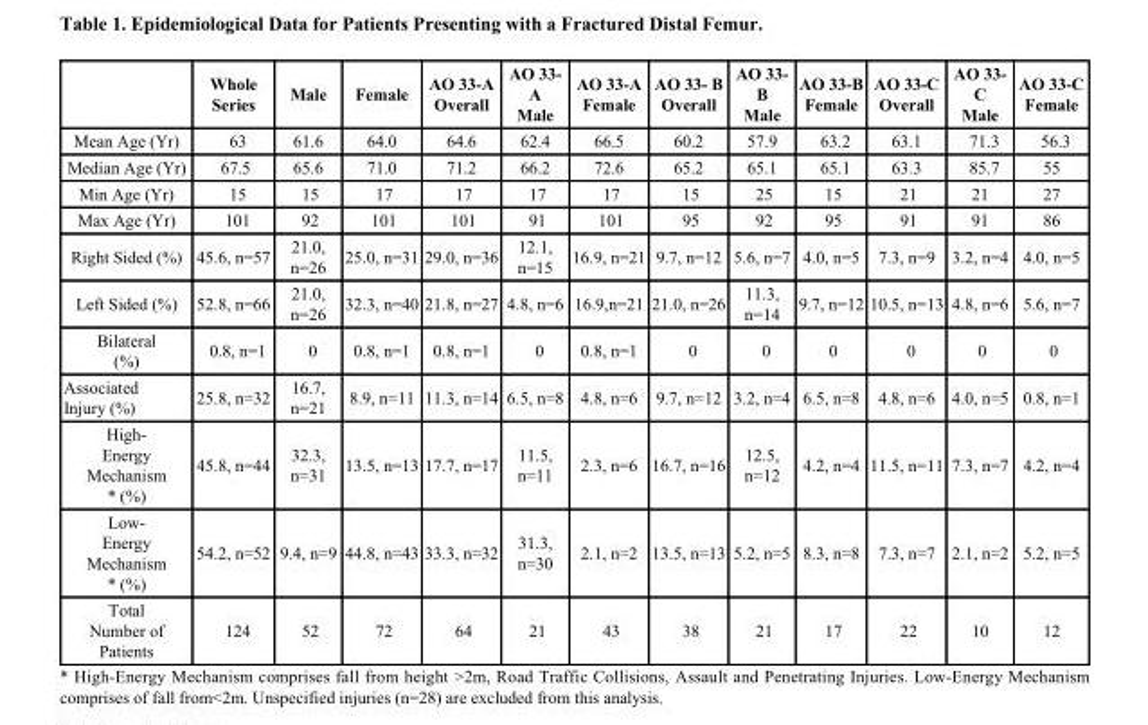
<table><thead><tr><td></td><td>Whole Series</td><td>Male</td><td>Female</td><td>AO 33-A Overall</td><td>AO 33- A Male</td><td>AO 33-A Female</td><td>AO 33- B Overall</td><td>AO 33- B Male</td><td>AO 33-B Female</td><td>AO 33-C Overall</td><td>AO 33- C Male</td><td>AO 33-C Female</td></tr></thead><tbody><tr><td>Mean Age (Yr)</td><td>63</td><td>61.6</td><td>64.0</td><td>64.6</td><td>62.4</td><td>66.5</td><td>60.2</td><td>57.9</td><td>63.2</td><td>63.1</td><td>71.3</td><td>56.3</td></tr><tr><td>Median Age (Yr)</td><td>67.5</td><td>65.6</td><td>71.0</td><td>71.2</td><td>66.2</td><td>72.6</td><td>65.2</td><td>65.1</td><td>65.1</td><td>63.3</td><td>85.7</td><td>55</td></tr><tr><td>Min Age (Yr)</td><td>15</td><td>15</td><td>17</td><td>17</td><td>17</td><td>17</td><td>15</td><td>25</td><td>15</td><td>21</td><td>21</td><td>27</td></tr><tr><td>Max Age (Yr)</td><td>101</td><td>92</td><td>101</td><td>101</td><td>91</td><td>101</td><td>95</td><td>92</td><td>95</td><td>91</td><td>91</td><td>86</td></tr><tr><td>Right Sided (%)</td><td>45.6, n=57</td><td>21.0, n=26</td><td>25.0, n=31</td><td>29.0, n=36</td><td>12.1, n=15</td><td>16.9, n=21</td><td>9.7, n=12</td><td>5.6, n=7</td><td>4.0, n=5</td><td>7.3, n=9</td><td>3.2, n=4</td><td>4.0, n=5</td></tr><tr><td>Left Sided (%)</td><td>52.8, n=66</td><td>21.0, n=26</td><td>32.3, n=40</td><td>21.8, n=27</td><td>4.8, n=6</td><td>16.9,n=21</td><td>21.0, n=26</td><td>11.3, n=14</td><td>9.7, n=12</td><td>10.5, n=13</td><td>4.8, n=6</td><td>5.6, n=7</td></tr><tr><td>Bilateral (%)</td><td>0.8, n=1</td><td>0</td><td>0.8, n=1</td><td>0.8, n=1</td><td>0</td><td>0.8, n=1</td><td>0</td><td>0</td><td>0</td><td>0</td><td>0</td><td>0</td></tr><tr><td>Associated Injury (%)</td><td>25.8, n=32</td><td>16.7, n=21</td><td>8.9, n=11</td><td>11.3, n=14</td><td>6.5, n=8</td><td>4.8, n=6</td><td>9.7, n=12</td><td>3.2, n=4</td><td>6.5, n=8</td><td>4.8, n=6</td><td>4.0, n=5</td><td>0.8, n=1</td></tr><tr><td>High- Energy Mechanism * (%)</td><td>45.8, n=44</td><td>32.3, n=31</td><td>13.5, n=13</td><td>17.7, n=17</td><td>11.5, n=11</td><td>2.3, n=6</td><td>16.7, n=16</td><td>12.5, n=12</td><td>4.2, n=4</td><td>11.5, n=11</td><td>7.3, n=7</td><td>4.2, n=4</td></tr><tr><td>Low- Energy Mechanism * (%)</td><td>54.2, n=52</td><td>9.4, n=9</td><td>44.8, n=43</td><td>33.3, n=32</td><td>31.3, n=30</td><td>2.1, n=2</td><td>13.5, n=13</td><td>5.2, n=5</td><td>8.3, n=8</td><td>7.3, n=7</td><td>2.1, n=2</td><td>5.2, n=5</td></tr><tr><td>Total Number of Patients</td><td>124</td><td>52</td><td>72</td><td>64</td><td>21</td><td>43</td><td>38</td><td>21</td><td>17</td><td>22</td><td>10</td><td>12</td></tr></tbody></table>